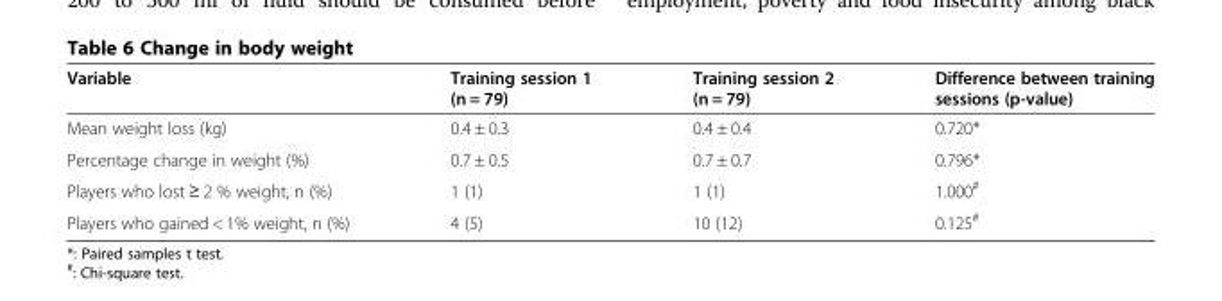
<table><thead><tr><td>Variable</td><td>Training session 1 (n = 79)</td><td>Training session 2 (n = 79)</td><td>Difference between training sessions (p-value)</td></tr></thead><tbody><tr><td>Mean weight loss (kg)</td><td>0.4 ± 0.3</td><td>0.4 ± 0.4</td><td>0.720*</td></tr><tr><td>Percentage change in weight (%)</td><td>0.7 ± 0.5</td><td>0.7 ± 0.7</td><td>0.796*</td></tr><tr><td>Players who lost ≥ 2 % weight, n (%)</td><td>1 (1)</td><td>1 (1)</td><td>1.000<sup>#</sup></td></tr><tr><td>Players who gained &lt; 1% weight, n (%)</td><td>4 (5)</td><td>10 (12)</td><td>0.125<sup>#</sup></td></tr></tbody></table>